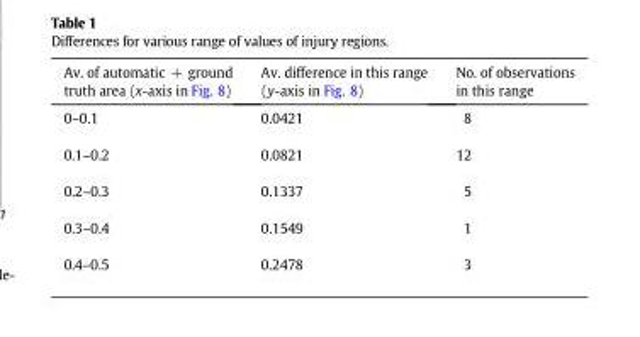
<table><thead><tr><td>Av. of automatic + ground truth area (x-axis in Fig. 8)</td><td>Av. difference in this range (y-axis in Fig. 8)</td><td>No. of observations in this range</td></tr></thead><tbody><tr><td>0–0.1</td><td>0.0421</td><td>8</td></tr><tr><td>0.1–0.2</td><td>0.0821</td><td>12</td></tr><tr><td>0.2–0.3</td><td>0.1337</td><td>5</td></tr><tr><td>0.3–0.4</td><td>0.1549</td><td>1</td></tr><tr><td>0.4–0.5</td><td>0.2478</td><td>3</td></tr></tbody></table>